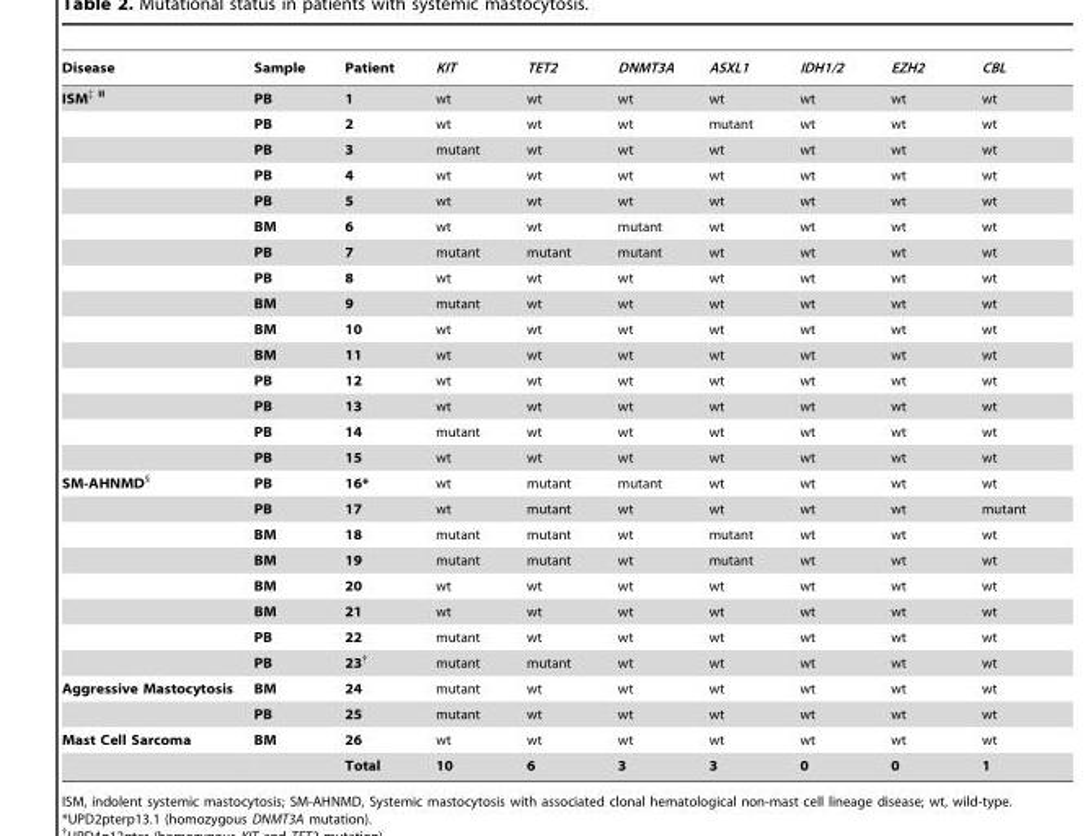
<table><thead><tr><td>Disease</td><td>Sample</td><td>Patient</td><td>KIT</td><td>TET2</td><td>DNMT3A</td><td>ASXL1</td><td>IDH1/2</td><td>EZH2</td><td>CBL</td></tr></thead><tbody><tr><td rowspan="15">ISM‡ II</td><td>PB</td><td>1</td><td>wt</td><td>wt</td><td>wt</td><td>wt</td><td>wt</td><td>wt</td><td>wt</td></tr><tr><td>PB</td><td>2</td><td>wt</td><td>wt</td><td>wt</td><td>mutant</td><td>wt</td><td>wt</td><td>wt</td></tr><tr><td>PB</td><td>3</td><td>mutant</td><td>wt</td><td>wt</td><td>wt</td><td>wt</td><td>wt</td><td>wt</td></tr><tr><td>PB</td><td>4</td><td>wt</td><td>wt</td><td>wt</td><td>wt</td><td>wt</td><td>wt</td><td>wt</td></tr><tr><td>PB</td><td>5</td><td>wt</td><td>wt</td><td>wt</td><td>wt</td><td>wt</td><td>wt</td><td>wt</td></tr><tr><td>BM</td><td>6</td><td>wt</td><td>wt</td><td>mutant</td><td>wt</td><td>wt</td><td>wt</td><td>wt</td></tr><tr><td>PB</td><td>7</td><td>mutant</td><td>mutant</td><td>mutant</td><td>wt</td><td>wt</td><td>wt</td><td>wt</td></tr><tr><td>PB</td><td>8</td><td>wt</td><td>wt</td><td>wt</td><td>wt</td><td>wt</td><td>wt</td><td>wt</td></tr><tr><td>BM</td><td>9</td><td>mutant</td><td>wt</td><td>wt</td><td>wt</td><td>wt</td><td>wt</td><td>wt</td></tr><tr><td>BM</td><td>10</td><td>wt</td><td>wt</td><td>wt</td><td>wt</td><td>wt</td><td>wt</td><td>wt</td></tr><tr><td>BM</td><td>11</td><td>wt</td><td>wt</td><td>wt</td><td>wt</td><td>wt</td><td>wt</td><td>wt</td></tr><tr><td>PB</td><td>12</td><td>wt</td><td>wt</td><td>wt</td><td>wt</td><td>wt</td><td>wt</td><td>wt</td></tr><tr><td>PB</td><td>13</td><td>wt</td><td>wt</td><td>wt</td><td>wt</td><td>wt</td><td>wt</td><td>wt</td></tr><tr><td>PB</td><td>14</td><td>mutant</td><td>wt</td><td>wt</td><td>wt</td><td>wt</td><td>wt</td><td>wt</td></tr><tr><td>PB</td><td>15</td><td>wt</td><td>wt</td><td>wt</td><td>wt</td><td>wt</td><td>wt</td><td>wt</td></tr><tr><td rowspan="8">SM-AHNMD§</td><td>PB</td><td>16*</td><td>wt</td><td>mutant</td><td>mutant</td><td>wt</td><td>wt</td><td>wt</td><td>wt</td></tr><tr><td>PB</td><td>17</td><td>wt</td><td>mutant</td><td>wt</td><td>wt</td><td>wt</td><td>wt</td><td>mutant</td></tr><tr><td>BM</td><td>18</td><td>mutant</td><td>mutant</td><td>wt</td><td>mutant</td><td>wt</td><td>wt</td><td>wt</td></tr><tr><td>BM</td><td>19</td><td>mutant</td><td>mutant</td><td>wt</td><td>mutant</td><td>wt</td><td>wt</td><td>wt</td></tr><tr><td>BM</td><td>20</td><td>wt</td><td>wt</td><td>wt</td><td>wt</td><td>wt</td><td>wt</td><td>wt</td></tr><tr><td>BM</td><td>21</td><td>wt</td><td>wt</td><td>wt</td><td>wt</td><td>wt</td><td>wt</td><td>wt</td></tr><tr><td>PB</td><td>22</td><td>mutant</td><td>wt</td><td>wt</td><td>wt</td><td>wt</td><td>wt</td><td>wt</td></tr><tr><td>PB</td><td>23†</td><td>mutant</td><td>mutant</td><td>wt</td><td>wt</td><td>wt</td><td>wt</td><td>wt</td></tr><tr><td rowspan="2">Aggressive Mastocytosis</td><td>BM</td><td>24</td><td>mutant</td><td>wt</td><td>wt</td><td>wt</td><td>wt</td><td>wt</td><td>wt</td></tr><tr><td>PB</td><td>25</td><td>mutant</td><td>wt</td><td>wt</td><td>wt</td><td>wt</td><td>wt</td><td>wt</td></tr><tr><td rowspan="2">Mast Cell Sarcoma</td><td>BM</td><td>26</td><td>wt</td><td>wt</td><td>wt</td><td>wt</td><td>wt</td><td>wt</td><td>wt</td></tr><tr><td></td><td>Total</td><td>10</td><td>6</td><td>3</td><td>3</td><td>0</td><td>0</td><td>1</td></tr></tbody></table>